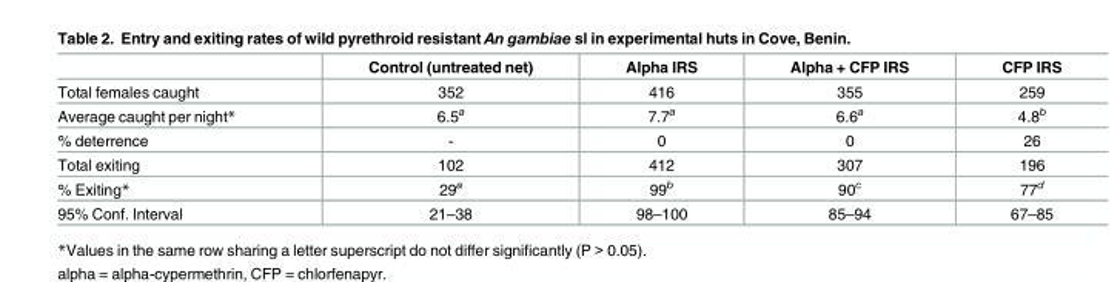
<table><thead><tr><td></td><td>Control (untreated net)</td><td>Alpha IRS</td><td>Alpha + CFP IRS</td><td>CFP IRS</td></tr></thead><tbody><tr><td>Total females caught</td><td>352</td><td>416</td><td>355</td><td>259</td></tr><tr><td>Average caught per night*</td><td>6.5<sup>a</sup></td><td>7.7<sup>a</sup></td><td>6.6<sup>a</sup></td><td>4.8<sup>b</sup></td></tr><tr><td>% deterrence</td><td>-</td><td>0</td><td>0</td><td>26</td></tr><tr><td>Total exiting</td><td>102</td><td>412</td><td>307</td><td>196</td></tr><tr><td>% Exiting*</td><td>29<sup>a</sup></td><td>99<sup>b</sup></td><td>90<sup>c</sup></td><td>77<sup>d</sup></td></tr><tr><td>95% Conf. Interval</td><td>21–38</td><td>98–100</td><td>85–94</td><td>67–85</td></tr></tbody></table>